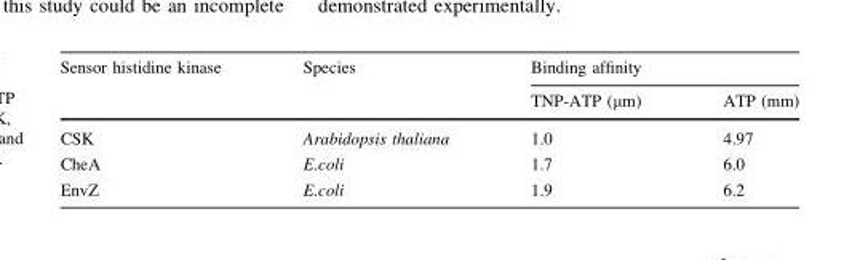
<table><thead><tr><td rowspan="2">Sensor histidine kinase</td><td rowspan="2">Species</td><td colspan="2">Binding affinity</td></tr><tr><td>TNP-ATP (µm)</td><td>ATP (mm)</td></tr></thead><tbody><tr><td>CSK</td><td>Arabidopsis thaliana</td><td>1.0</td><td>4.97</td></tr><tr><td>CheA</td><td>E.coli</td><td>1.7</td><td>6.0</td></tr><tr><td>EnvZ</td><td>E.coli</td><td>1.9</td><td>6.2</td></tr></tbody></table>